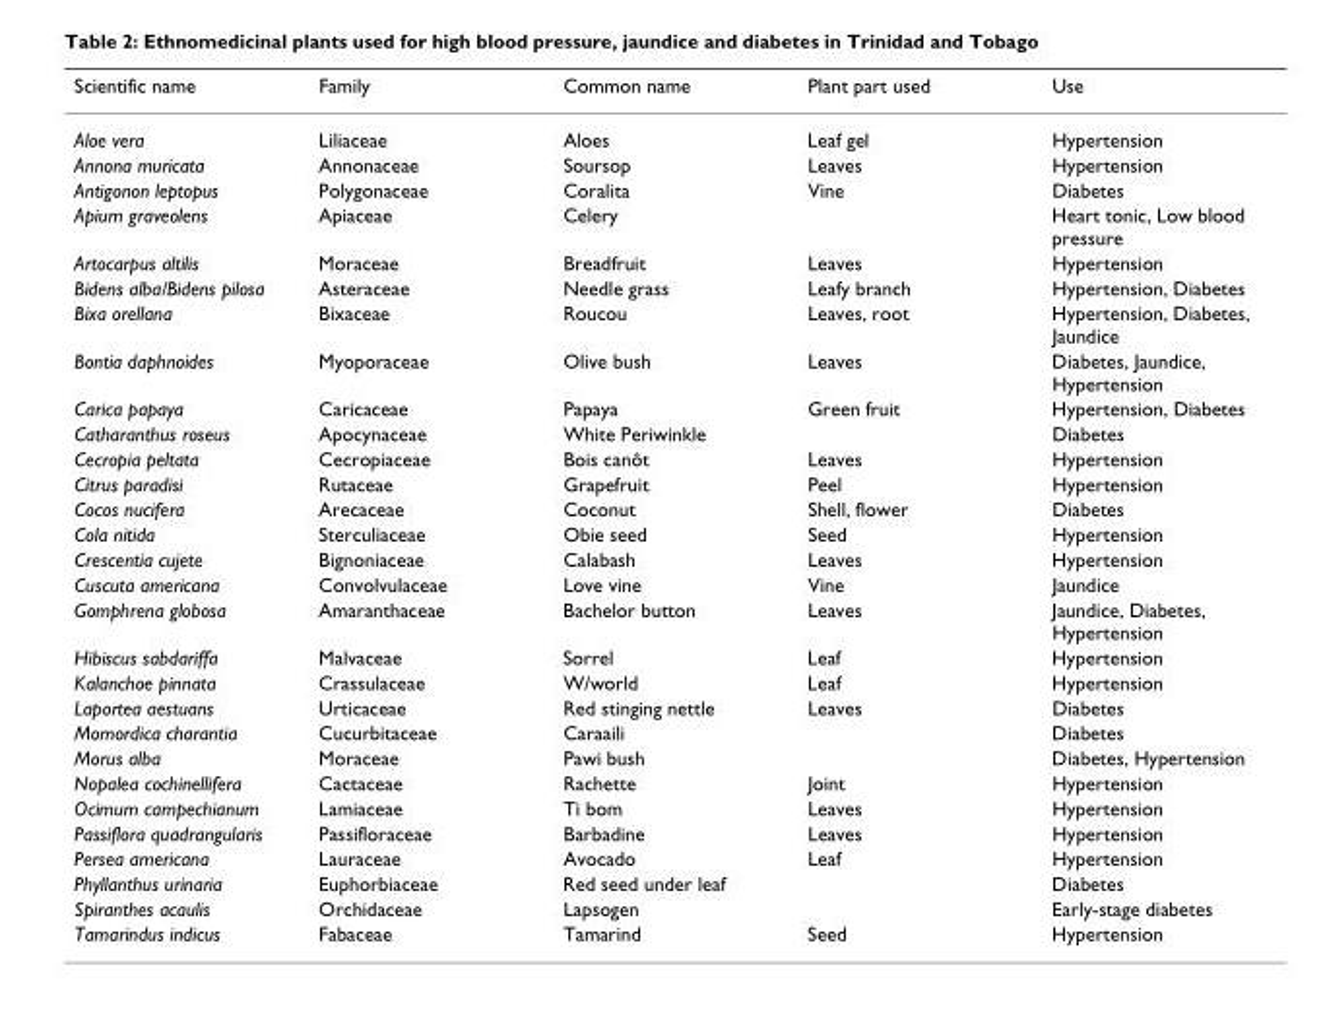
<table><thead><tr><td>Scientific name</td><td>Family</td><td>Common name</td><td>Plant part used</td><td>Use</td></tr></thead><tbody><tr><td>Aloe vera</td><td>Liliaceae</td><td>Aloes</td><td>Leaf gel</td><td>Hypertension</td></tr><tr><td>Annona muricata</td><td>Annonaceae</td><td>Soursop</td><td>Leaves</td><td>Hypertension</td></tr><tr><td>Antigonon leptopus</td><td>Polygonaceae</td><td>Coralita</td><td>Vine</td><td>Diabetes</td></tr><tr><td>Apium graveolens</td><td>Apiaceae</td><td>Celery</td><td></td><td>Heart tonic, Low blood pressure</td></tr><tr><td>Artocarpus altilis</td><td>Moraceae</td><td>Breadfruit</td><td>Leaves</td><td>Hypertension</td></tr><tr><td>Bidens alba/Bidens pilosa</td><td>Asteraceae</td><td>Needle grass</td><td>Leafy branch</td><td>Hypertension, Diabetes</td></tr><tr><td>Bixa orellana</td><td>Bixaceae</td><td>Roucou</td><td>Leaves, root</td><td>Hypertension, Diabetes, Jaundice</td></tr><tr><td>Bontia daphnoides</td><td>Myoporaceae</td><td>Olive bush</td><td>Leaves</td><td>Diabetes, Jaundice, Hypertension</td></tr><tr><td>Carica papaya</td><td>Caricaceae</td><td>Papaya</td><td>Green fruit</td><td>Hypertension, Diabetes</td></tr><tr><td>Catharanthus roseus</td><td>Apocynaceae</td><td>White Periwinkle</td><td></td><td>Diabetes</td></tr><tr><td>Cecropia peltata</td><td>Cecropiaceae</td><td>Bois canôt</td><td>Leaves</td><td>Hypertension</td></tr><tr><td>Citrus paradisi</td><td>Rutaceae</td><td>Grapefruit</td><td>Peel</td><td>Hypertension</td></tr><tr><td>Cocos nucifera</td><td>Arecaceae</td><td>Coconut</td><td>Shell, flower</td><td>Diabetes</td></tr><tr><td>Cola nitida</td><td>Sterculiaceae</td><td>Obie seed</td><td>Seed</td><td>Hypertension</td></tr><tr><td>Crescentia cujete</td><td>Bignoniaceae</td><td>Calabash</td><td>Leaves</td><td>Hypertension</td></tr><tr><td>Cuscuta americana</td><td>Convolvulaceae</td><td>Love vine</td><td>Vine</td><td>Jaundice</td></tr><tr><td>Gomphrena globosa</td><td>Amaranthaceae</td><td>Bachelor button</td><td>Leaves</td><td>Jaundice, Diabetes, Hypertension</td></tr><tr><td>Hibiscus sabdariffa</td><td>Malvaceae</td><td>Sorrel</td><td>Leaf</td><td>Hypertension</td></tr><tr><td>Kalanchoe pinnata</td><td>Crassulaceae</td><td>W/world</td><td>Leaf</td><td>Hypertension</td></tr><tr><td>Laportea aestuans</td><td>Urticaceae</td><td>Red stinging nettle</td><td>Leaves</td><td>Diabetes</td></tr><tr><td>Momordica charantia</td><td>Cucurbitaceae</td><td>Caraaili</td><td></td><td>Diabetes</td></tr><tr><td>Morus alba</td><td>Moraceae</td><td>Pawi bush</td><td></td><td>Diabetes, Hypertension</td></tr><tr><td>Nopalea cochinellifera</td><td>Cactaceae</td><td>Rachette</td><td>Joint</td><td>Hypertension</td></tr><tr><td>Ocimum campechianum</td><td>Lamiaceae</td><td>Ti bom</td><td>Leaves</td><td>Hypertension</td></tr><tr><td>Passiflora quadrangularis</td><td>Passifloraceae</td><td>Barbadine</td><td>Leaves</td><td>Hypertension</td></tr><tr><td>Persea americana</td><td>Lauraceae</td><td>Avocado</td><td>Leaf</td><td>Hypertension</td></tr><tr><td>Phyllanthus urinaria</td><td>Euphorbiaceae</td><td>Red seed under leaf</td><td></td><td>Diabetes</td></tr><tr><td>Spiranthes acaulis</td><td>Orchidaceae</td><td>Lapsogen</td><td></td><td>Early-stage diabetes</td></tr><tr><td>Tamarindus indicus</td><td>Fabaceae</td><td>Tamarind</td><td>Seed</td><td>Hypertension</td></tr></tbody></table>